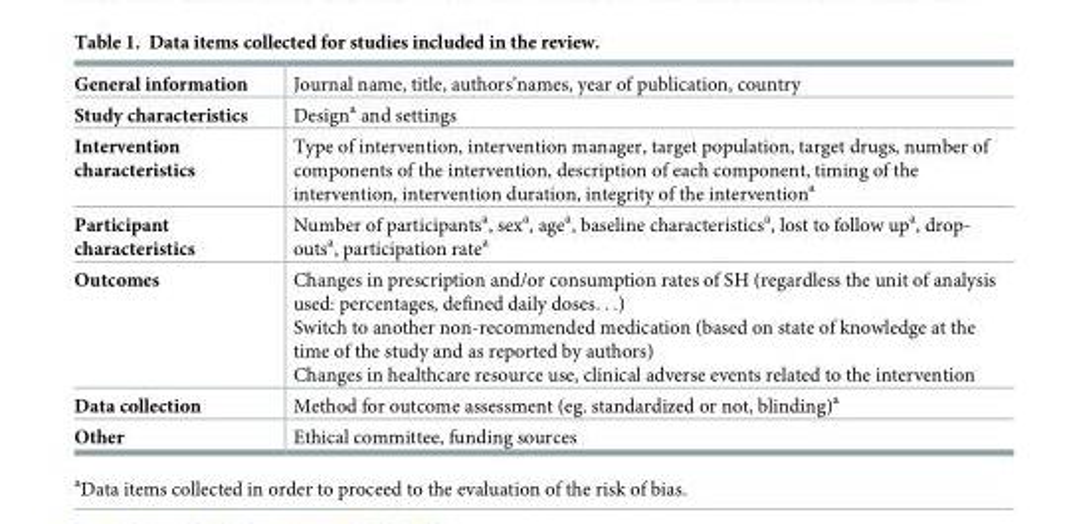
<table><tbody><tr><td>General information</td><td>Journal name, title, authors’names, year of publication, country</td></tr><tr><td>Study characteristics</td><td>Design<sup>a</sup> and settings</td></tr><tr><td>Intervention characteristics</td><td>Type of intervention, intervention manager, target population, target drugs, number of components of the intervention, description of each component, timing of the intervention, intervention duration, integrity of the intervention<sup>a</sup></td></tr><tr><td>Participant characteristics</td><td>Number of participants<sup>a</sup>, sex<sup>a</sup>, age<sup>a</sup>, baseline characteristics<sup>a</sup>, lost to follow up<sup>a</sup>, drop- outs<sup>a</sup>, participation rate<sup>a</sup></td></tr><tr><td>Outcomes</td><td>Changes in prescription and/or consumption rates of SH (regardless the unit of analysis used: percentages, defined daily doses. . .) Switch to another non-recommended medication (based on state of knowledge at the time of the study and as reported by authors) Changes in healthcare resource use, clinical adverse events related to the intervention</td></tr><tr><td>Data collection</td><td>Method for outcome assessment (eg. standardized or not, blinding)<sup>a</sup></td></tr><tr><td>Other</td><td>Ethical committee, funding sources</td></tr></tbody></table>